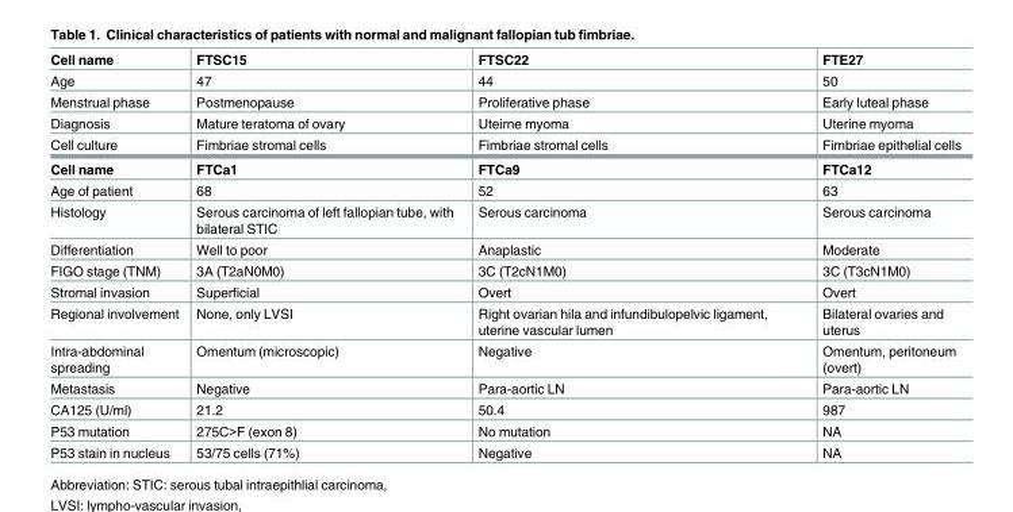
<table><tbody><tr><td>Cell name</td><td>FTSC15</td><td>FTSC22</td><td>FTE27</td></tr><tr><td>Age</td><td>47</td><td>44</td><td>50</td></tr><tr><td>Menstrual phase</td><td>Postmenopause</td><td>Proliferative phase</td><td>Early luteal phase</td></tr><tr><td>Diagnosis</td><td>Mature teratoma of ovary</td><td>Uteirne myoma</td><td>Uterine myoma</td></tr><tr><td>Cell culture</td><td>Fimbriae stromal cells</td><td>Fimbriae stromal cells</td><td>Fimbriae epithelial cells</td></tr><tr><td>Cell name</td><td>FTCa1</td><td>FTCa9</td><td>FTCa12</td></tr><tr><td>Age of patient</td><td>68</td><td>52</td><td>63</td></tr><tr><td>Histology</td><td>Serous carcinoma of left fallopian tube, with bilateral STIC</td><td>Serous carcinoma</td><td>Serous carcinoma</td></tr><tr><td>Differentiation</td><td>Well to poor</td><td>Anaplastic</td><td>Moderate</td></tr><tr><td>FIGO stage (TNM)</td><td>3A (T2aN0M0)</td><td>3C (T2cN1M0)</td><td>3C (T3cN1M0)</td></tr><tr><td>Stromal invasion</td><td>Superficial</td><td>Overt</td><td>Overt</td></tr><tr><td>Regional involvement</td><td>None, only LVSI</td><td>Right ovarian hila and infundibulopelvic ligament, uterine vascular lumen</td><td>Bilateral ovaries and uterus</td></tr><tr><td>Intra-abdominal spreading</td><td>Omentum (microscopic)</td><td>Negative</td><td>Omentum, peritoneum (overt)</td></tr><tr><td>Metastasis</td><td>Negative</td><td>Para-aortic LN</td><td>Para-aortic LN</td></tr><tr><td>CA125 (U/ml)</td><td>21.2</td><td>50.4</td><td>987</td></tr><tr><td>P53 mutation</td><td>275C&gt;F (exon 8)</td><td>No mutation</td><td>NA</td></tr><tr><td>P53 stain in nucleus</td><td>53/75 cells (71%)</td><td>Negative</td><td>NA</td></tr></tbody></table>